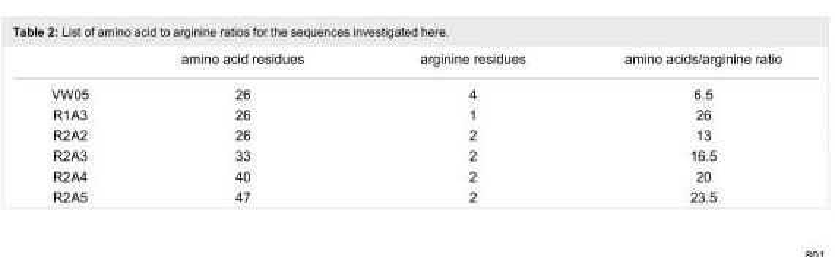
<table><thead><tr><td></td><td>amino acid residues</td><td>arginine residues</td><td>amino acids/arginine ratio</td></tr></thead><tbody><tr><td>VW05</td><td>26</td><td>4</td><td>6.5</td></tr><tr><td>R1A3</td><td>26</td><td>1</td><td>26</td></tr><tr><td>R2A2</td><td>26</td><td>2</td><td>13</td></tr><tr><td>R2A3</td><td>33</td><td>2</td><td>16.5</td></tr><tr><td>R2A4</td><td>40</td><td>2</td><td>20</td></tr><tr><td>R2A5</td><td>47</td><td>2</td><td>23.5</td></tr></tbody></table>